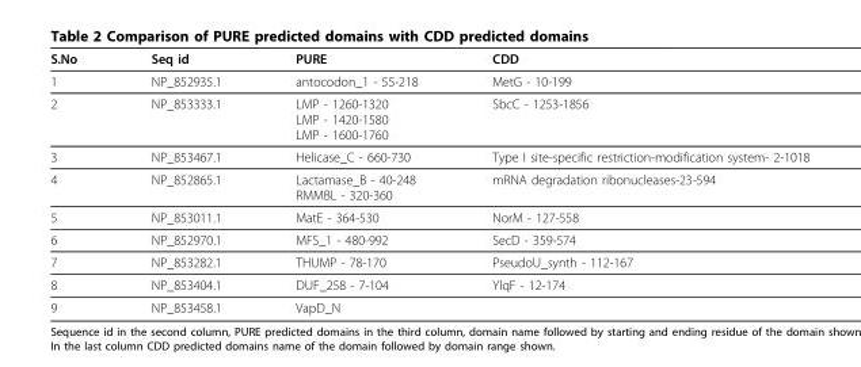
<table><thead><tr><td>S.No</td><td>Seq id</td><td>PURE</td><td>CDD</td></tr></thead><tbody><tr><td>1</td><td>NP_852935.1</td><td>antocodon_1 - 55-218</td><td>MetG - 10-199</td></tr><tr><td>2</td><td>NP_853333.1</td><td>LMP - 1260-1320 LMP - 1420-1580 LMP - 1600-1760</td><td>SbcC - 1253-1856</td></tr><tr><td>3</td><td>NP_853467.1</td><td>Helicase_C - 660-730</td><td>Type I site-specific restriction-modification system- 2-1018</td></tr><tr><td>4</td><td>NP_852865.1</td><td>Lactamase_B - 40-248 RMMBL - 320-360</td><td>mRNA degradation ribonucleases-23-594</td></tr><tr><td>5</td><td>NP_853011.1</td><td>MatE - 364-530</td><td>NorM - 127-558</td></tr><tr><td>6</td><td>NP_852970.1</td><td>MFS_1 - 480-992</td><td>SecD - 359-574</td></tr><tr><td>7</td><td>NP_853282.1</td><td>THUMP - 78-170</td><td>PseudoU_synth - 112-167</td></tr><tr><td>8</td><td>NP_853404.1</td><td>DUF_258 - 7-104</td><td>YlqF - 12-174</td></tr><tr><td>9</td><td>NP_853458.1</td><td>VapD_N</td><td></td></tr></tbody></table>